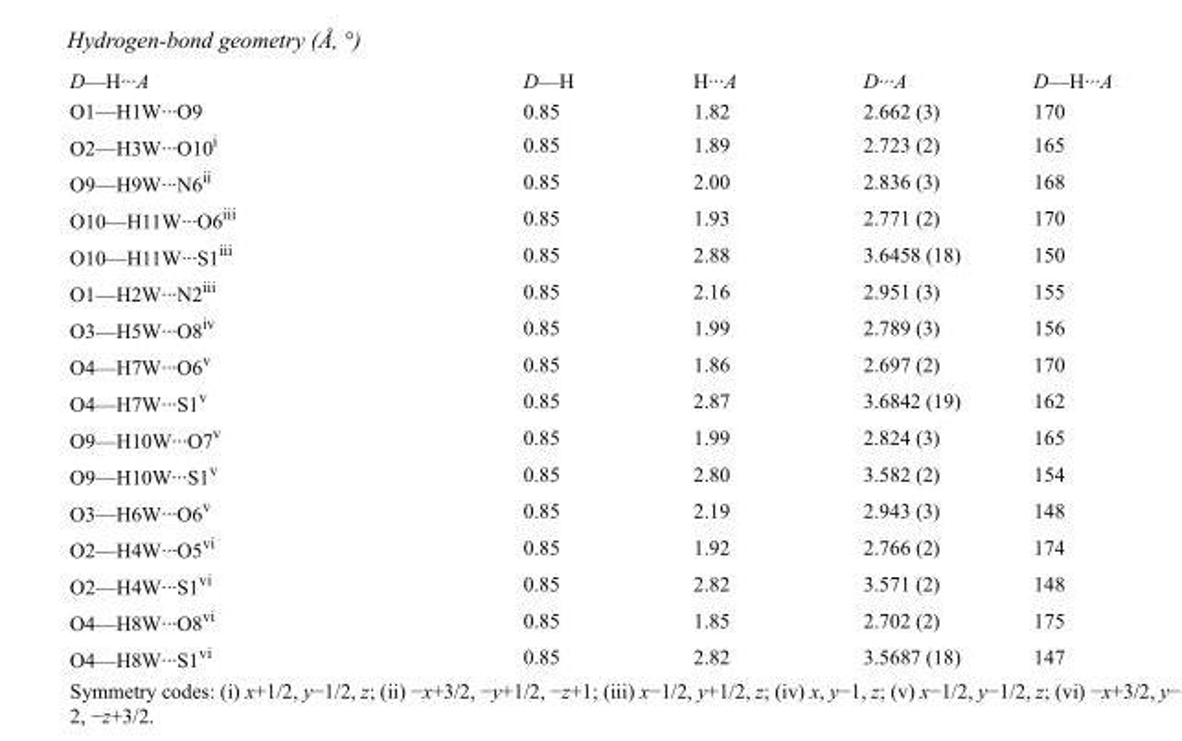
<table><tbody><tr><td>D—H···A</td><td>D—H</td><td>H···A</td><td>D···A</td><td>D—H···A</td></tr><tr><td>O1—H1W···O9</td><td>0.85</td><td>1.82</td><td>2.662 (3)</td><td>170</td></tr><tr><td>O2—H3W···O10<sup>i</sup></td><td>0.85</td><td>1.89</td><td>2.723 (2)</td><td>165</td></tr><tr><td>O9—H9W···N6<sup>ii</sup></td><td>0.85</td><td>2.00</td><td>2.836 (3)</td><td>168</td></tr><tr><td>O10—H11W···O6<sup>iii</sup></td><td>0.85</td><td>1.93</td><td>2.771 (2)</td><td>170</td></tr><tr><td>O10—H11W···S1<sup>iii</sup></td><td>0.85</td><td>2.88</td><td>3.6458 (18)</td><td>150</td></tr><tr><td>O1—H2W···N2<sup>iii</sup></td><td>0.85</td><td>2.16</td><td>2.951 (3)</td><td>155</td></tr><tr><td>O3—H5W···O8<sup>iv</sup></td><td>0.85</td><td>1.99</td><td>2.789 (3)</td><td>156</td></tr><tr><td>O4—H7W···O6<sup>v</sup></td><td>0.85</td><td>1.86</td><td>2.697 (2)</td><td>170</td></tr><tr><td>O4—H7W···S1<sup>v</sup></td><td>0.85</td><td>2.87</td><td>3.6842 (19)</td><td>162</td></tr><tr><td>O9—H10W···O7<sup>v</sup></td><td>0.85</td><td>1.99</td><td>2.824 (3)</td><td>165</td></tr><tr><td>O9—H10W···S1<sup>v</sup></td><td>0.85</td><td>2.80</td><td>3.582 (2)</td><td>154</td></tr><tr><td>O3—H6W···O6<sup>v</sup></td><td>0.85</td><td>2.19</td><td>2.943 (3)</td><td>148</td></tr><tr><td>O2—H4W···O5<sup>vi</sup></td><td>0.85</td><td>1.92</td><td>2.766 (2)</td><td>174</td></tr><tr><td>O2—H4W···S1<sup>vi</sup></td><td>0.85</td><td>2.82</td><td>3.571 (2)</td><td>148</td></tr><tr><td>O4—H8W···O8<sup>vi</sup></td><td>0.85</td><td>1.85</td><td>2.702 (2)</td><td>175</td></tr><tr><td>O4—H8W···S1<sup>vi</sup></td><td>0.85</td><td>2.82</td><td>3.5687 (18)</td><td>147</td></tr></tbody></table>